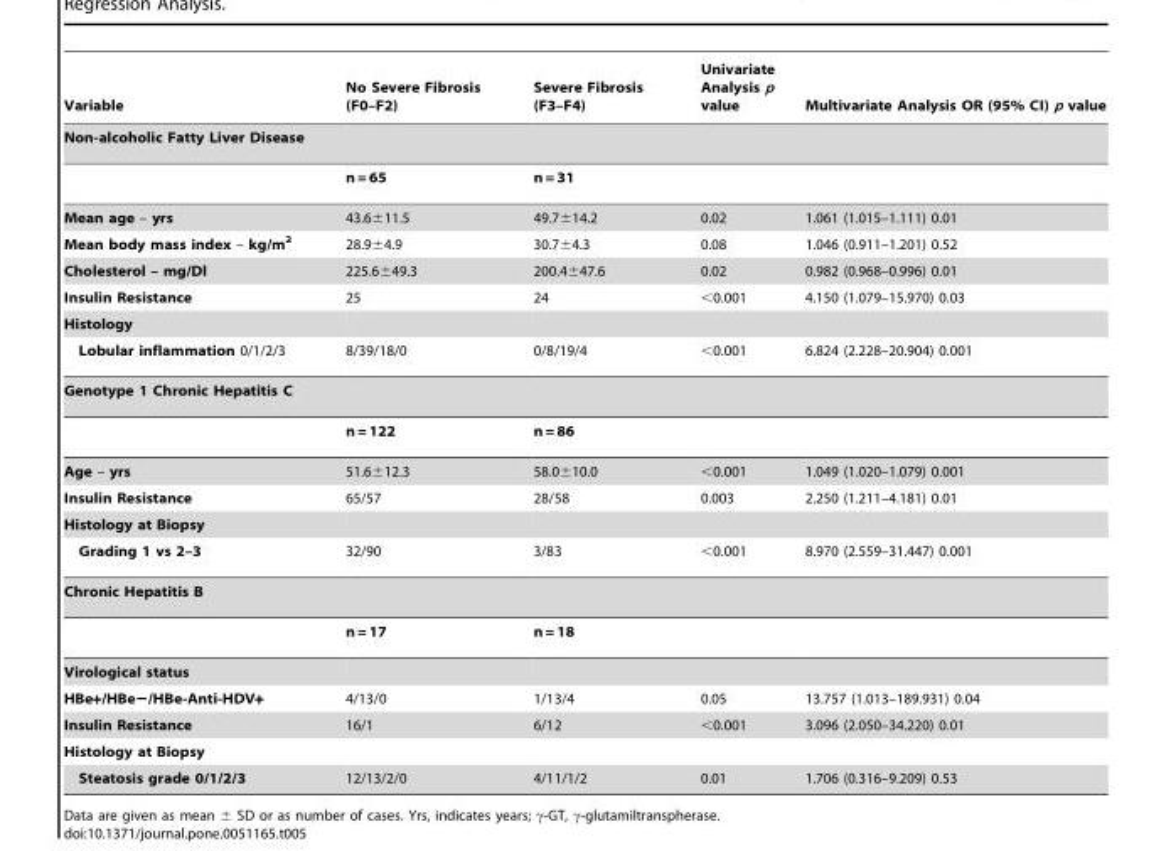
<table><thead><tr><td>Variable</td><td>No Severe Fibrosis (F0–F2)</td><td>Severe Fibrosis (F3–F4)</td><td>Univariate Analysis p value</td><td>Multivariate Analysis OR (95% CI) p value</td></tr></thead><tbody><tr><td colspan="5">Non-alcoholic Fatty Liver Disease</td></tr><tr><td></td><td>n = 65</td><td>n = 31</td><td></td><td></td></tr><tr><td>Mean age – yrs</td><td>43.6±11.5</td><td>49.7±14.2</td><td>0.02</td><td>1.061 (1.015–1.111) 0.01</td></tr><tr><td>Mean body mass index – kg/m<sup>2</sup></td><td>28.9±4.9</td><td>30.7±4.3</td><td>0.08</td><td>1.046 (0.911–1.201) 0.52</td></tr><tr><td>Cholesterol – mg/Dl</td><td>225.6±49.3</td><td>200.4±47.6</td><td>0.02</td><td>0.982 (0.968–0.996) 0.01</td></tr><tr><td>Insulin Resistance</td><td>25</td><td>24</td><td>&lt;0.001</td><td>4.150 (1.079–15.970) 0.03</td></tr><tr><td colspan="5">Histology</td></tr><tr><td>Lobular inflammation 0/1/2/3</td><td>8/39/18/0</td><td>0/8/19/4</td><td>&lt;0.001</td><td>6.824 (2.228–20.904) 0.001</td></tr><tr><td colspan="5">Genotype 1 Chronic Hepatitis C</td></tr><tr><td></td><td>n = 122</td><td>n = 86</td><td></td><td></td></tr><tr><td>Age – yrs</td><td>51.6±12.3</td><td>58.0±10.0</td><td>&lt;0.001</td><td>1.049 (1.020–1.079) 0.001</td></tr><tr><td>Insulin Resistance</td><td>65/57</td><td>28/58</td><td>0.003</td><td>2.250 (1.211–4.181) 0.01</td></tr><tr><td colspan="5">Histology at Biopsy</td></tr><tr><td>Grading 1 vs 2–3</td><td>32/90</td><td>3/83</td><td>&lt;0.001</td><td>8.970 (2.559–31.447) 0.001</td></tr><tr><td colspan="5">Chronic Hepatitis B</td></tr><tr><td></td><td>n = 17</td><td>n = 18</td><td></td><td></td></tr><tr><td colspan="5">Virological status</td></tr><tr><td>HBe+/HBe−/HBe-Anti-HDV+</td><td>4/13/0</td><td>1/13/4</td><td>0.05</td><td>13.757 (1.013–189.931) 0.04</td></tr><tr><td>Insulin Resistance</td><td>16/1</td><td>6/12</td><td>&lt;0.001</td><td>3.096 (2.050–34.220) 0.01</td></tr><tr><td colspan="5">Histology at Biopsy</td></tr><tr><td>Steatosis grade 0/1/2/3</td><td>12/13/2/0</td><td>4/11/1/2</td><td>0.01</td><td>1.706 (0.316–9.209) 0.53</td></tr></tbody></table>